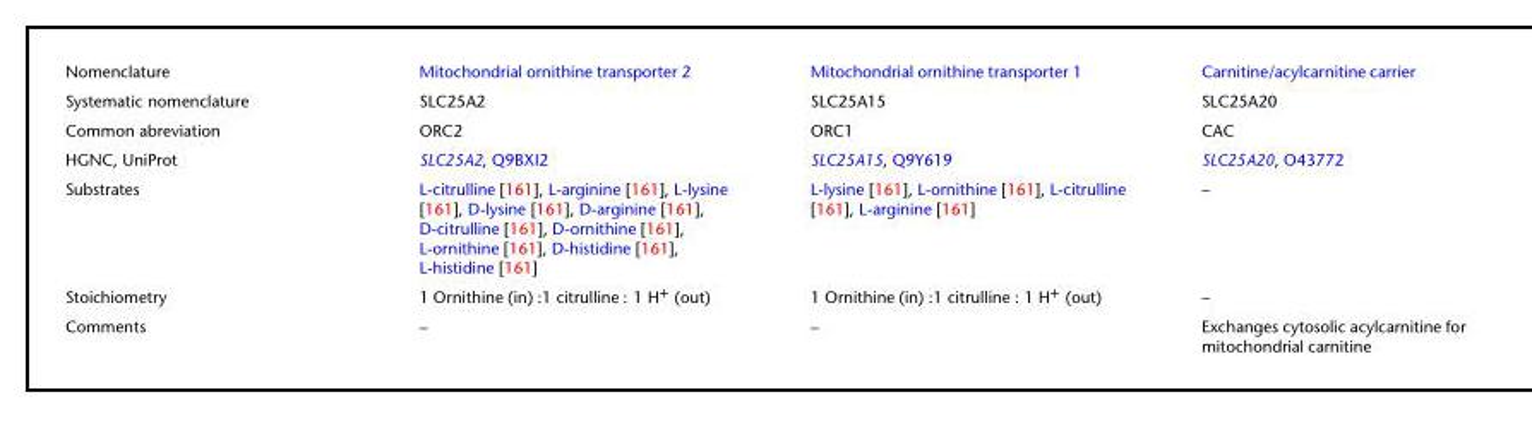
<table><tbody><tr><td>Nomenclature</td><td>Mitochondrial ornithine transporter 2</td><td>Mitochondrial ornithine transporter 1</td><td>Carnitine/acylcarnitine carrier</td></tr><tr><td>Systematic nomenclature</td><td>SLC25A2</td><td>SLC25A15</td><td>SLC25A20</td></tr><tr><td>Common abreviation</td><td>ORC2</td><td>ORC1</td><td>CAC</td></tr><tr><td>HGNC, UniProt</td><td>SLC25A2, Q9BXI2</td><td>SLC25A15, Q9Y619</td><td>SLC25A20, O43772</td></tr><tr><td>Substrates</td><td>L-citrulline [161], L-arginine [161], L-lysine [161], D-lysine [161], D-arginine [161], D-citrulline [161], D-ornithine [161], L-ornithine [161], D-histidine [161], L-histidine [161]</td><td>L-lysine [161], L-ornithine [161], L-citrulline [161], L-arginine [161]</td><td>–</td></tr><tr><td>Stoichiometry</td><td>1 Ornithine (in) :1 citrulline : 1 H<sup>+</sup> (out)</td><td>1 Ornithine (in) :1 citrulline : 1 H<sup>+</sup> (out)</td><td>–</td></tr><tr><td>Comments</td><td>–</td><td>–</td><td>Exchanges cytosolic acylcarnitine for mitochondrial carnitine</td></tr></tbody></table>